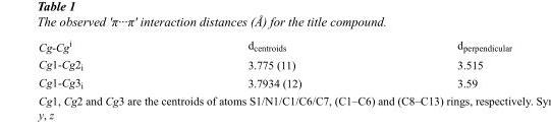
<table><thead><tr><td>Cg-Cg<sup>i</sup></td><td>d<sub>centroids</sub></td><td>d<sub>perpendicular</sub></td></tr></thead><tbody><tr><td>Cg1-Cg2<sup>i</sup></td><td>3.775 (11)</td><td>3.515</td></tr><tr><td>Cg1-Cg3<sup>i</sup></td><td>3.7934 (12)</td><td>3.59</td></tr></tbody></table>